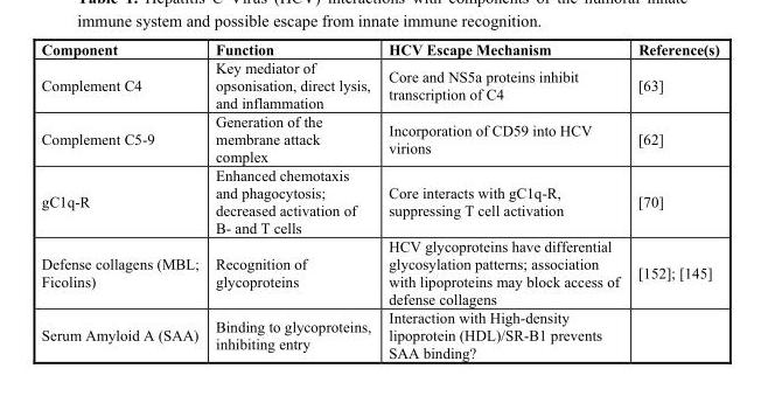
<table><thead><tr><td>Component</td><td>Function</td><td>HCV Escape Mechanism</td><td>Reference(s)</td></tr></thead><tbody><tr><td>Complement C4</td><td>Key mediator of opsonisation, direct lysis, and inflammation</td><td>Core and NS5a proteins inhibit transcription of C4</td><td>[63]</td></tr><tr><td>Complement C5-9</td><td>Generation of the membrane attack complex</td><td>Incorporation of CD59 into HCV virions</td><td>[62]</td></tr><tr><td>gC1q-R</td><td>Enhanced chemotaxis and phagocytosis; decreased activation of B- and T cells</td><td>Core interacts with gC1q-R, suppressing T cell activation</td><td>[70]</td></tr><tr><td>Defense collagens (MBL; Ficolins)</td><td>Recognition of glycoproteins</td><td>HCV glycoproteins have differential glycosylation patterns; association with lipoproteins may block access of defense collagens</td><td>[152]; [145]</td></tr><tr><td>Serum Amyloid A (SAA)</td><td>Binding to glycoproteins, inhibiting entry</td><td>Interaction with High-density lipoprotein (HDL)/SR-B1 prevents SAA binding?</td><td></td></tr></tbody></table>